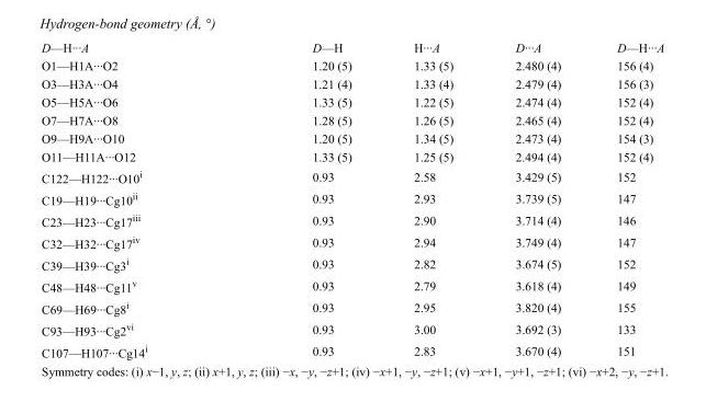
<table><tbody><tr><td>D—H···A</td><td>D—H</td><td>H···A</td><td>D···A</td><td>D—H···A</td></tr><tr><td>O1—H1A···O2</td><td>1.20 (5)</td><td>1.33 (5)</td><td>2.480 (4)</td><td>156 (4)</td></tr><tr><td>O3—H3A···O4</td><td>1.21 (4)</td><td>1.33 (4)</td><td>2.479 (4)</td><td>156 (3)</td></tr><tr><td>O5—H5A···O6</td><td>1.33 (5)</td><td>1.22 (5)</td><td>2.474 (4)</td><td>152 (4)</td></tr><tr><td>O7—H7A···O8</td><td>1.28 (5)</td><td>1.26 (5)</td><td>2.465 (4)</td><td>152 (4)</td></tr><tr><td>O9—H9A···O10</td><td>1.20 (5)</td><td>1.34 (5)</td><td>2.473 (4)</td><td>154 (3)</td></tr><tr><td>O11—H11A···O12</td><td>1.33 (5)</td><td>1.25 (5)</td><td>2.494 (4)</td><td>152 (4)</td></tr><tr><td>C122—H122···O10<sup>i</sup></td><td>0.93</td><td>2.58</td><td>3.429 (5)</td><td>152</td></tr><tr><td>C19—H19···Cg10<sup>ii</sup></td><td>0.93</td><td>2.93</td><td>3.739 (5)</td><td>147</td></tr><tr><td>C23—H23···Cg17<sup>iii</sup></td><td>0.93</td><td>2.90</td><td>3.714 (4)</td><td>146</td></tr><tr><td>C32—H32···Cg17<sup>iv</sup></td><td>0.93</td><td>2.94</td><td>3.749 (4)</td><td>147</td></tr><tr><td>C39—H39···Cg3<sup>i</sup></td><td>0.93</td><td>2.82</td><td>3.674 (5)</td><td>152</td></tr><tr><td>C48—H48···Cg11<sup>v</sup></td><td>0.93</td><td>2.79</td><td>3.618 (4)</td><td>149</td></tr><tr><td>C69—H69···Cg8<sup>i</sup></td><td>0.93</td><td>2.95</td><td>3.820 (4)</td><td>155</td></tr><tr><td>C93—H93···Cg2<sup>vi</sup></td><td>0.93</td><td>3.00</td><td>3.692 (3)</td><td>133</td></tr><tr><td>C107—H107···Cg14<sup>i</sup></td><td>0.93</td><td>2.83</td><td>3.670 (4)</td><td>151</td></tr></tbody></table>